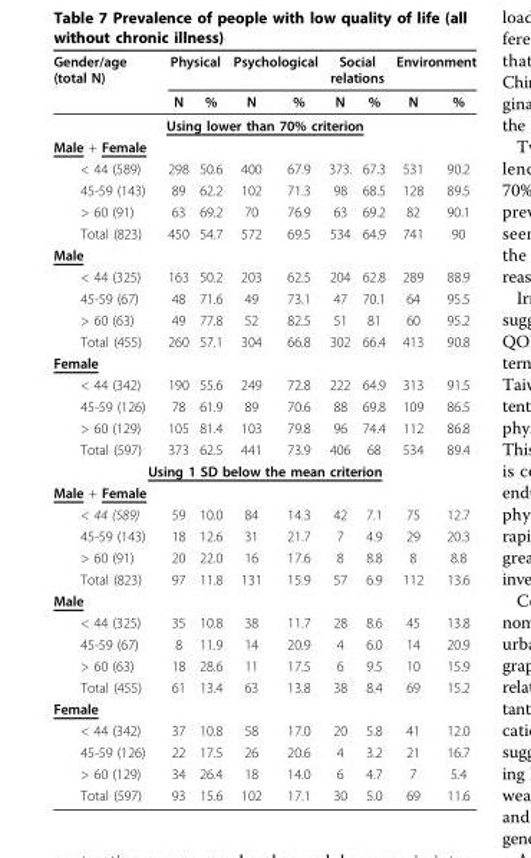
<table><tbody><tr><td rowspan="2">Gender/age (total N)</td><td colspan="2">Physical</td><td colspan="2">Psychological</td><td colspan="2">Social relations</td><td colspan="2">Environment</td></tr><tr><td>N</td><td>%</td><td>N</td><td>%</td><td>N</td><td>%</td><td>N</td><td>%</td></tr><tr><td colspan="9">Using lower than 70% criterion</td></tr><tr><td colspan="9">Male + Female</td></tr><tr><td>&lt; 44 (589)</td><td>298</td><td>50.6</td><td>400</td><td>67.9</td><td>373.</td><td>67.3</td><td>531</td><td>90.2</td></tr><tr><td>45-59 (143)</td><td>89</td><td>62.2</td><td>102</td><td>71.3</td><td>98</td><td>68.5</td><td>128</td><td>89.5</td></tr><tr><td>&gt; 60 (91)</td><td>63</td><td>69.2</td><td>70</td><td>76.9</td><td>63</td><td>69.2</td><td>82</td><td>90.1</td></tr><tr><td>Total (823)</td><td>450</td><td>54.7</td><td>572</td><td>69.5</td><td>534</td><td>64.9</td><td>741</td><td>90</td></tr><tr><td colspan="9">Male</td></tr><tr><td>&lt; 44 (325)</td><td>163</td><td>50.2</td><td>203</td><td>62.5</td><td>204</td><td>62.8</td><td>289</td><td>88.9</td></tr><tr><td>45-59 (67)</td><td>48</td><td>71.6</td><td>49</td><td>73.1</td><td>47</td><td>70.1</td><td>64</td><td>95.5</td></tr><tr><td>&gt; 60 (63)</td><td>49</td><td>77.8</td><td>52</td><td>82.5</td><td>51</td><td>81</td><td>60</td><td>95.2</td></tr><tr><td>Total (455)</td><td>260</td><td>57.1</td><td>304</td><td>66.8</td><td>302</td><td>66.4</td><td>413</td><td>90.8</td></tr><tr><td colspan="9">Female</td></tr><tr><td>&lt; 44 (342)</td><td>190</td><td>55.6</td><td>249</td><td>72.8</td><td>222</td><td>64.9</td><td>313</td><td>91.5</td></tr><tr><td>45-59 (126)</td><td>78</td><td>61.9</td><td>89</td><td>70.6</td><td>88</td><td>69.8</td><td>109</td><td>86.5</td></tr><tr><td>&gt; 60 (129)</td><td>105</td><td>81.4</td><td>103</td><td>79.8</td><td>96</td><td>74.4</td><td>112</td><td>86.8</td></tr><tr><td>Total (597)</td><td>373</td><td>62.5</td><td>441</td><td>73.9</td><td>406</td><td>68</td><td>534</td><td>89.4</td></tr><tr><td colspan="9">Using 1 SD below the mean criterion</td></tr><tr><td colspan="9">Male + Female</td></tr><tr><td>&lt; 44 (589)</td><td>59</td><td>10.0</td><td>84</td><td>14.3</td><td>42</td><td>7.1</td><td>75</td><td>12.7</td></tr><tr><td>45-59 (143)</td><td>18</td><td>12.6</td><td>31</td><td>21.7</td><td>7</td><td>4.9</td><td>29</td><td>20.3</td></tr><tr><td>&gt; 60 (91)</td><td>20</td><td>22.0</td><td>16</td><td>17.6</td><td>8</td><td>8.8</td><td>8</td><td>8.8</td></tr><tr><td>Total (823)</td><td>97</td><td>11.8</td><td>131</td><td>15.9</td><td>57</td><td>6.9</td><td>112</td><td>13.6</td></tr><tr><td colspan="9">Male</td></tr><tr><td>&lt; 44 (325)</td><td>35</td><td>10.8</td><td>38</td><td>11.7</td><td>28</td><td>8.6</td><td>45</td><td>13.8</td></tr><tr><td>45-59 (67)</td><td>8</td><td>11.9</td><td>14</td><td>20.9</td><td>4</td><td>6.0</td><td>14</td><td>20.9</td></tr><tr><td>&gt; 60 (63)</td><td>18</td><td>28.6</td><td>11</td><td>17.5</td><td>6</td><td>9.5</td><td>10</td><td>15.9</td></tr><tr><td>Total (455)</td><td>61</td><td>13.4</td><td>63</td><td>13.8</td><td>38</td><td>8.4</td><td>69</td><td>15.2</td></tr><tr><td colspan="9">Female</td></tr><tr><td>&lt; 44 (342)</td><td>37</td><td>10.8</td><td>58</td><td>17.0</td><td>20</td><td>5.8</td><td>41</td><td>12.0</td></tr><tr><td>45-59 (126)</td><td>22</td><td>17.5</td><td>26</td><td>20.6</td><td>4</td><td>3.2</td><td>21</td><td>16.7</td></tr><tr><td>&gt; 60 (129)</td><td>34</td><td>26.4</td><td>18</td><td>14.0</td><td>6</td><td>4.7</td><td>7</td><td>5.4</td></tr><tr><td>Total (597)</td><td>93</td><td>15.6</td><td>102</td><td>17.1</td><td>30</td><td>5.0</td><td>69</td><td>11.6</td></tr></tbody></table>